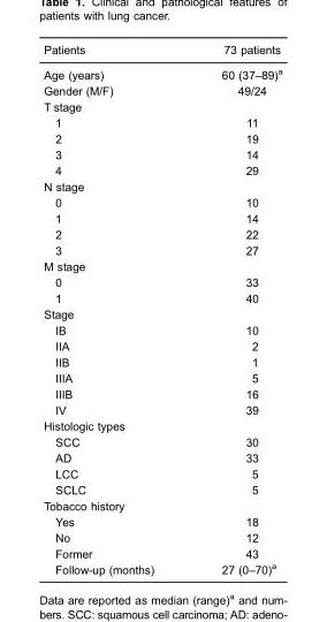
<table><thead><tr><td>Patients</td><td>73 patients</td></tr></thead><tbody><tr><td>Age (years)</td><td>60 (37–89)<sup>a</sup></td></tr><tr><td>Gender (M/F)</td><td>49/24</td></tr><tr><td colspan="2">T stage</td></tr><tr><td>1</td><td>11</td></tr><tr><td>2</td><td>19</td></tr><tr><td>3</td><td>14</td></tr><tr><td>4</td><td>29</td></tr><tr><td colspan="2">N stage</td></tr><tr><td>0</td><td>10</td></tr><tr><td>1</td><td>14</td></tr><tr><td>2</td><td>22</td></tr><tr><td>3</td><td>27</td></tr><tr><td colspan="2">M stage</td></tr><tr><td>0</td><td>33</td></tr><tr><td>1</td><td>40</td></tr><tr><td colspan="2">Stage</td></tr><tr><td>IB</td><td>10</td></tr><tr><td>IIA</td><td>2</td></tr><tr><td>IIB</td><td>1</td></tr><tr><td>IIIA</td><td>5</td></tr><tr><td>IIIB</td><td>16</td></tr><tr><td>IV</td><td>39</td></tr><tr><td colspan="2">Histologic types</td></tr><tr><td>SCC</td><td>30</td></tr><tr><td>AD</td><td>33</td></tr><tr><td>LCC</td><td>5</td></tr><tr><td>SCLC</td><td>5</td></tr><tr><td colspan="2">Tobacco history</td></tr><tr><td>Yes</td><td>18</td></tr><tr><td>No</td><td>12</td></tr><tr><td>Former</td><td>43</td></tr><tr><td>Follow-up (months)</td><td>27 (0–70)<sup>a</sup></td></tr></tbody></table>